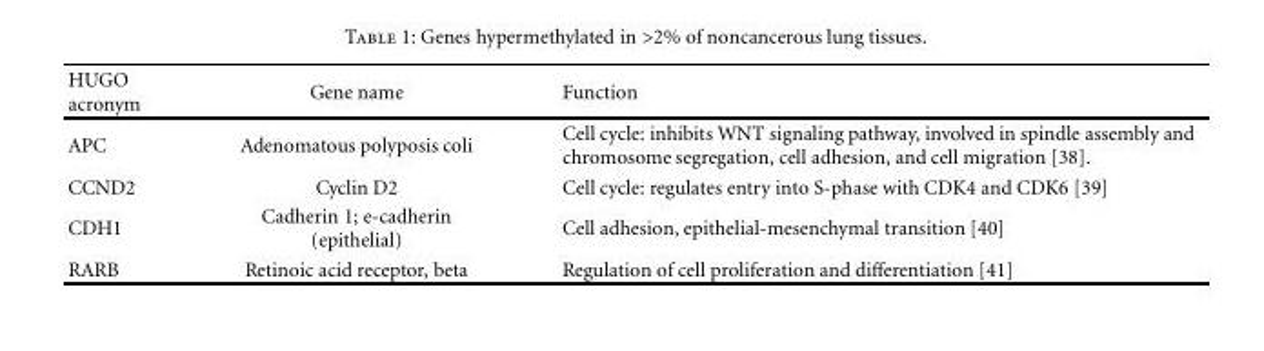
<table><thead><tr><td>HUGO acronym</td><td>Gene name</td><td>Function</td></tr></thead><tbody><tr><td>APC</td><td>Adenomatous polyposis coli</td><td>Cell cycle: inhibits WNT signaling pathway, involved in spindle assembly and chromosome segregation, cell adhesion, and cell migration [38].</td></tr><tr><td>CCND2</td><td>Cyclin D2</td><td>Cell cycle: regulates entry into S-phase with CDK4 and CDK6 [39]</td></tr><tr><td>CDH1</td><td>Cadherin 1; e-cadherin (epithelial)</td><td>Cell adhesion, epithelial-mesenchymal transition [40]</td></tr><tr><td>RARB</td><td>Retinoic acid receptor, beta</td><td>Regulation of cell proliferation and differentiation [41]</td></tr></tbody></table>